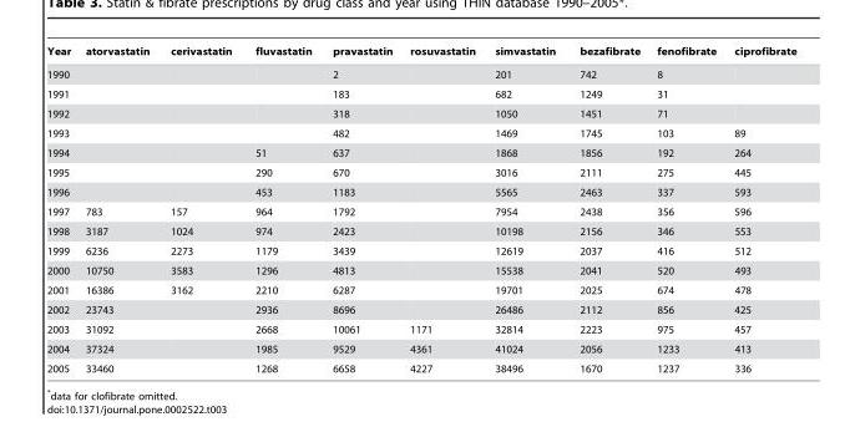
<table><thead><tr><td>Year</td><td>atorvastatin</td><td>cerivastatin</td><td>fluvastatin</td><td>pravastatin</td><td>rosuvastatin</td><td>simvastatin</td><td>bezafibrate</td><td>fenofibrate</td><td>ciprofibrate</td></tr></thead><tbody><tr><td>1990</td><td></td><td></td><td></td><td>2</td><td></td><td>201</td><td>742</td><td>8</td><td></td></tr><tr><td>1991</td><td></td><td></td><td></td><td>183</td><td></td><td>682</td><td>1249</td><td>31</td><td></td></tr><tr><td>1992</td><td></td><td></td><td></td><td>318</td><td></td><td>1050</td><td>1451</td><td>71</td><td></td></tr><tr><td>1993</td><td></td><td></td><td></td><td>482</td><td></td><td>1469</td><td>1745</td><td>103</td><td>89</td></tr><tr><td>1994</td><td></td><td></td><td>51</td><td>637</td><td></td><td>1868</td><td>1856</td><td>192</td><td>264</td></tr><tr><td>1995</td><td></td><td></td><td>290</td><td>670</td><td></td><td>3016</td><td>2111</td><td>275</td><td>445</td></tr><tr><td>1996</td><td></td><td></td><td>453</td><td>1183</td><td></td><td>5565</td><td>2463</td><td>337</td><td>593</td></tr><tr><td>1997</td><td>783</td><td>157</td><td>964</td><td>1792</td><td></td><td>7954</td><td>2438</td><td>356</td><td>596</td></tr><tr><td>1998</td><td>3187</td><td>1024</td><td>974</td><td>2423</td><td></td><td>10198</td><td>2156</td><td>346</td><td>553</td></tr><tr><td>1999</td><td>6236</td><td>2273</td><td>1179</td><td>3439</td><td></td><td>12619</td><td>2037</td><td>416</td><td>512</td></tr><tr><td>2000</td><td>10750</td><td>3583</td><td>1296</td><td>4813</td><td></td><td>15538</td><td>2041</td><td>520</td><td>493</td></tr><tr><td>2001</td><td>16386</td><td>3162</td><td>2210</td><td>6287</td><td></td><td>19701</td><td>2025</td><td>674</td><td>478</td></tr><tr><td>2002</td><td>23743</td><td></td><td>2936</td><td>8696</td><td></td><td>26486</td><td>2112</td><td>856</td><td>425</td></tr><tr><td>2003</td><td>31092</td><td></td><td>2668</td><td>10061</td><td>1171</td><td>32814</td><td>2223</td><td>975</td><td>457</td></tr><tr><td>2004</td><td>37324</td><td></td><td>1985</td><td>9529</td><td>4361</td><td>41024</td><td>2056</td><td>1233</td><td>413</td></tr><tr><td>2005</td><td>33460</td><td></td><td>1268</td><td>6658</td><td>4227</td><td>38496</td><td>1670</td><td>1237</td><td>336</td></tr></tbody></table>